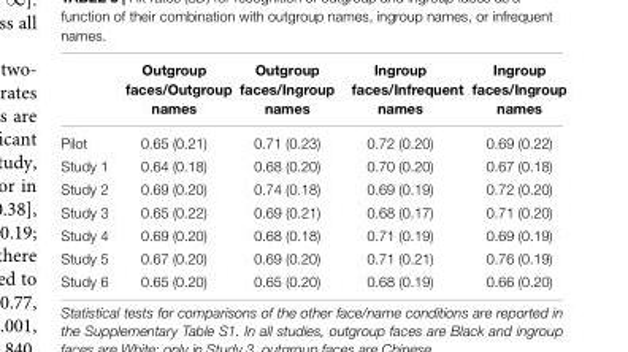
<table><thead><tr><td></td><td>Outgroup faces/Outgroup names</td><td>Outgroup faces/Ingroup names</td><td>Ingroup faces/Infrequent names</td><td>Ingroup faces/Ingroup names</td></tr></thead><tbody><tr><td>Pilot</td><td>0.65 (0.21)</td><td>0.71 (0.23)</td><td>0.72 (0.20)</td><td>0.69 (0.22)</td></tr><tr><td>Study 1</td><td>0.64 (0.18)</td><td>0.68 (0.20)</td><td>0.70 (0.20)</td><td>0.67 (0.18)</td></tr><tr><td>Study 2</td><td>0.69 (0.20)</td><td>0.74 (0.18)</td><td>0.69 (0.19)</td><td>0.72 (0.20)</td></tr><tr><td>Study 3</td><td>0.65 (0.22)</td><td>0.69 (0.21)</td><td>0.68 (0.17)</td><td>0.71 (0.20)</td></tr><tr><td>Study 4</td><td>0.69 (0.20)</td><td>0.68 (0.18)</td><td>0.71 (0.19)</td><td>0.69 (0.19)</td></tr><tr><td>Study 5</td><td>0.67 (0.20)</td><td>0.69 (0.20)</td><td>0.71 (0.21)</td><td>0.76 (0.19)</td></tr><tr><td>Study 6</td><td>0.65 (0.20)</td><td>0.65 (0.20)</td><td>0.68 (0.19)</td><td>0.66 (0.20)</td></tr></tbody></table>